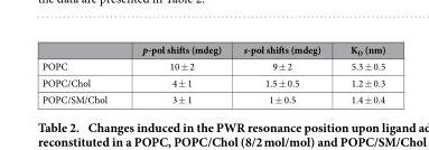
<table><thead><tr><td></td><td>p-pol shifts (mdeg)</td><td>s-pol shifts (mdeg)</td><td>K<sub>D</sub> (nm)</td></tr></thead><tbody><tr><td>POPC</td><td>10 ± 2</td><td>9 ± 2</td><td>5.3 ± 0.5</td></tr><tr><td>POPC/Chol</td><td>4 ± 1</td><td>1.5 ± 0.5</td><td>1.2 ± 0.3</td></tr><tr><td>POPC/SM/Chol</td><td>3 ± 1</td><td>1 ± 0.5</td><td>1.4 ± 0.4</td></tr></tbody></table>